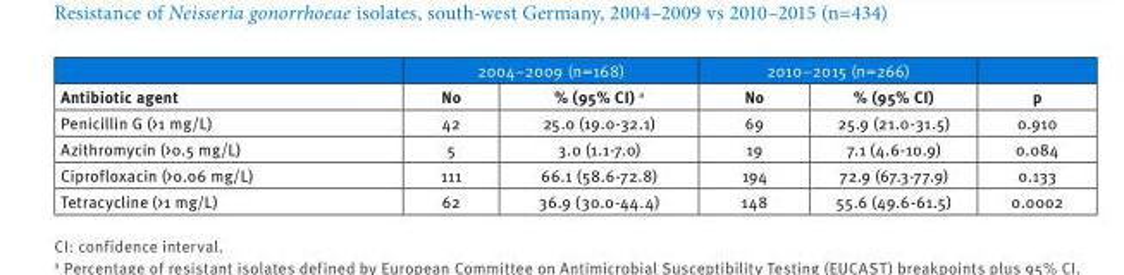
<table><thead><tr><td rowspan="2">Antibiotic agent</td><td colspan="2">2004–2009 (n=168)</td><td colspan="2">2010–2015 (n=266)</td><td rowspan="2">p</td></tr><tr><td>No</td><td>% (95% CI) <sup>a</sup></td><td>No</td><td>% (95% CI)</td></tr></thead><tbody><tr><td>Penicillin G (&gt;1 mg/L)</td><td>42</td><td>25.0 (19.0-32.1)</td><td>69</td><td>25.9 (21.0-31.5)</td><td>0.910</td></tr><tr><td>Azithromycin (&gt;0.5 mg/L)</td><td>5</td><td>3.0 (1.1-7.0)</td><td>19</td><td>7.1 (4.6-10.9)</td><td>0.084</td></tr><tr><td>Ciprofloxacin (&gt;0.06 mg/L)</td><td>111</td><td>66.1 (58.6-72.8)</td><td>194</td><td>72.9 (67.3-77.9)</td><td>0.133</td></tr><tr><td>Tetracycline (&gt;1 mg/L)</td><td>62</td><td>36.9 (30.0-44.4)</td><td>148</td><td>55.6 (49.6-61.5)</td><td>0.0002</td></tr></tbody></table>